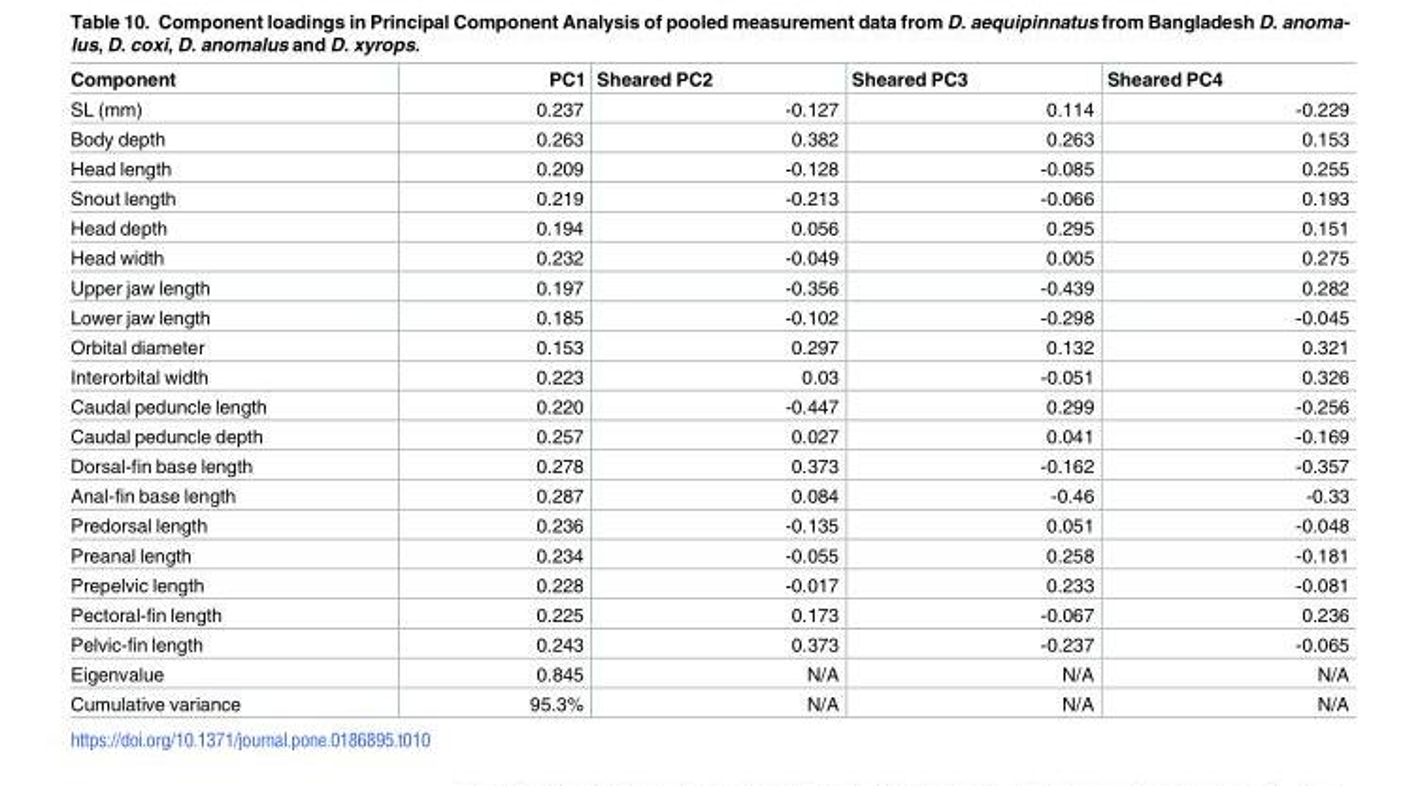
<table><thead><tr><td>Component</td><td>PC1</td><td>Sheared PC2</td><td>Sheared PC3</td><td>Sheared PC4</td></tr></thead><tbody><tr><td>SL (mm)</td><td>0.237</td><td>-0.127</td><td>0.114</td><td>-0.229</td></tr><tr><td>Body depth</td><td>0.263</td><td>0.382</td><td>0.263</td><td>0.153</td></tr><tr><td>Head length</td><td>0.209</td><td>-0.128</td><td>-0.085</td><td>0.255</td></tr><tr><td>Snout length</td><td>0.219</td><td>-0.213</td><td>-0.066</td><td>0.193</td></tr><tr><td>Head depth</td><td>0.194</td><td>0.056</td><td>0.295</td><td>0.151</td></tr><tr><td>Head width</td><td>0.232</td><td>-0.049</td><td>0.005</td><td>0.275</td></tr><tr><td>Upper jaw length</td><td>0.197</td><td>-0.356</td><td>-0.439</td><td>0.282</td></tr><tr><td>Lower jaw length</td><td>0.185</td><td>-0.102</td><td>-0.298</td><td>-0.045</td></tr><tr><td>Orbital diameter</td><td>0.153</td><td>0.297</td><td>0.132</td><td>0.321</td></tr><tr><td>Interorbital width</td><td>0.223</td><td>0.03</td><td>-0.051</td><td>0.326</td></tr><tr><td>Caudal peduncle length</td><td>0.220</td><td>-0.447</td><td>0.299</td><td>-0.256</td></tr><tr><td>Caudal peduncle depth</td><td>0.257</td><td>0.027</td><td>0.041</td><td>-0.169</td></tr><tr><td>Dorsal-fin base length</td><td>0.278</td><td>0.373</td><td>-0.162</td><td>-0.357</td></tr><tr><td>Anal-fin base length</td><td>0.287</td><td>0.084</td><td>-0.46</td><td>-0.33</td></tr><tr><td>Predorsal length</td><td>0.236</td><td>-0.135</td><td>0.051</td><td>-0.048</td></tr><tr><td>Preanal length</td><td>0.234</td><td>-0.055</td><td>0.258</td><td>-0.181</td></tr><tr><td>Prepelvic length</td><td>0.228</td><td>-0.017</td><td>0.233</td><td>-0.081</td></tr><tr><td>Pectoral-fin length</td><td>0.225</td><td>0.173</td><td>-0.067</td><td>0.236</td></tr><tr><td>Pelvic-fin length</td><td>0.243</td><td>0.373</td><td>-0.237</td><td>-0.065</td></tr><tr><td>Eigenvalue</td><td>0.845</td><td>N/A</td><td>N/A</td><td>N/A</td></tr><tr><td>Cumulative variance</td><td>95.3%</td><td>N/A</td><td>N/A</td><td>N/A</td></tr></tbody></table>